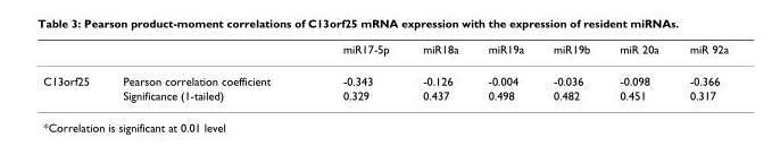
<table><thead><tr><td></td><td></td><td>miR17-5p</td><td>miR18a</td><td>miR19a</td><td>miR19b</td><td>miR 20a</td><td>miR 92a</td></tr></thead><tbody><tr><td rowspan="2">C13orf25</td><td>Pearson correlation coefficient</td><td>-0.343</td><td>-0.126</td><td>-0.004</td><td>-0.036</td><td>-0.098</td><td>-0.366</td></tr><tr><td>Significance (1-tailed)</td><td>0.329</td><td>0.437</td><td>0.498</td><td>0.482</td><td>0.451</td><td>0.317</td></tr></tbody></table>